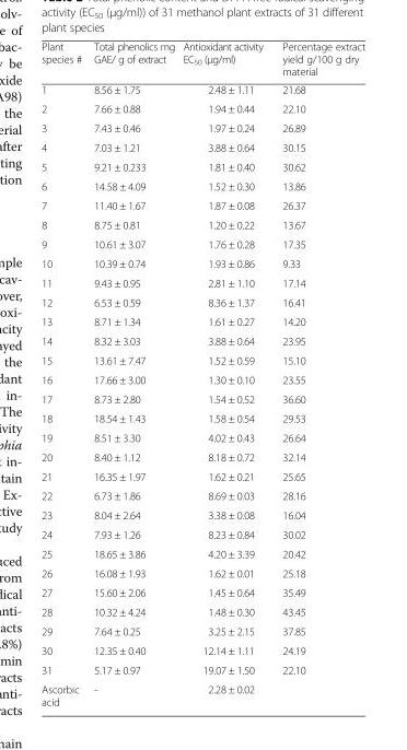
<table><thead><tr><td>Plant species #</td><td>Total phenolics mg GAE/ g of extract</td><td>Antioxidant activity EC<sub>50</sub> (μg/ml)</td><td>Percentage extract yield g/100 g dry material</td></tr></thead><tbody><tr><td>1</td><td>8.56 ± 1.75</td><td>2.48 ± 1.11</td><td>21.68</td></tr><tr><td>2</td><td>7.66 ± 0.88</td><td>1.94 ± 0.44</td><td>22.10</td></tr><tr><td>3</td><td>7.43 ± 0.46</td><td>1.97 ± 0.24</td><td>26.89</td></tr><tr><td>4</td><td>7.03 ± 1.21</td><td>3.88 ± 0.64</td><td>30.15</td></tr><tr><td>5</td><td>9.21 ± 0.233</td><td>1.81 ± 0.40</td><td>30.62</td></tr><tr><td>6</td><td>14.58 ± 4.09</td><td>1.52 ± 0.30</td><td>13.86</td></tr><tr><td>7</td><td>11.40 ± 1.67</td><td>1.87 ± 0.08</td><td>26.37</td></tr><tr><td>8</td><td>8.75 ± 0.81</td><td>1.20 ± 0.22</td><td>13.67</td></tr><tr><td>9</td><td>10.61 ± 3.07</td><td>1.76 ± 0.28</td><td>17.35</td></tr><tr><td>10</td><td>10.39 ± 0.74</td><td>1.93 ± 0.86</td><td>9.33</td></tr><tr><td>11</td><td>9.43 ± 0.95</td><td>2.81 ± 1.10</td><td>17.14</td></tr><tr><td>12</td><td>6.53 ± 0.59</td><td>8.36 ± 1.37</td><td>16.41</td></tr><tr><td>13</td><td>8.71 ± 1.34</td><td>1.61 ± 0.27</td><td>14.20</td></tr><tr><td>14</td><td>8.32 ± 3.03</td><td>3.88 ± 0.64</td><td>23.95</td></tr><tr><td>15</td><td>13.61 ± 7.47</td><td>1.52 ± 0.59</td><td>15.10</td></tr><tr><td>16</td><td>17.66 ± 3.00</td><td>1.30 ± 0.10</td><td>23.55</td></tr><tr><td>17</td><td>8.73 ± 2.80</td><td>1.54 ± 0.52</td><td>36.60</td></tr><tr><td>18</td><td>18.54 ± 1.43</td><td>1.58 ± 0.54</td><td>29.53</td></tr><tr><td>19</td><td>8.51 ± 3.30</td><td>4.02 ± 0.43</td><td>26.64</td></tr><tr><td>20</td><td>8.40 ± 1.12</td><td>8.18 ± 0.72</td><td>32.14</td></tr><tr><td>21</td><td>16.35 ± 1.97</td><td>1.62 ± 0.21</td><td>25.65</td></tr><tr><td>22</td><td>6.73 ± 1.86</td><td>8.69 ± 0.03</td><td>28.16</td></tr><tr><td>23</td><td>8.04 ± 2.64</td><td>3.38 ± 0.08</td><td>16.04</td></tr><tr><td>24</td><td>7.93 ± 1.26</td><td>8.23 ± 0.84</td><td>30.02</td></tr><tr><td>25</td><td>18.65 ± 3.86</td><td>4.20 ± 3.39</td><td>20.42</td></tr><tr><td>26</td><td>16.08 ± 1.93</td><td>1.62 ± 0.01</td><td>25.18</td></tr><tr><td>27</td><td>15.60 ± 2.06</td><td>1.45 ± 0.64</td><td>35.49</td></tr><tr><td>28</td><td>10.32 ± 4.24</td><td>1.48 ± 0.30</td><td>43.45</td></tr><tr><td>29</td><td>7.64 ± 0.25</td><td>3.25 ± 2.15</td><td>37.85</td></tr><tr><td>30</td><td>12.35 ± 0.40</td><td>12.14 ± 1.11</td><td>24.19</td></tr><tr><td>31</td><td>5.17 ± 0.97</td><td>19.07 ± 1.50</td><td>22.10</td></tr><tr><td>Ascorbic acid</td><td>-</td><td>2.28 ± 0.02</td><td></td></tr></tbody></table>